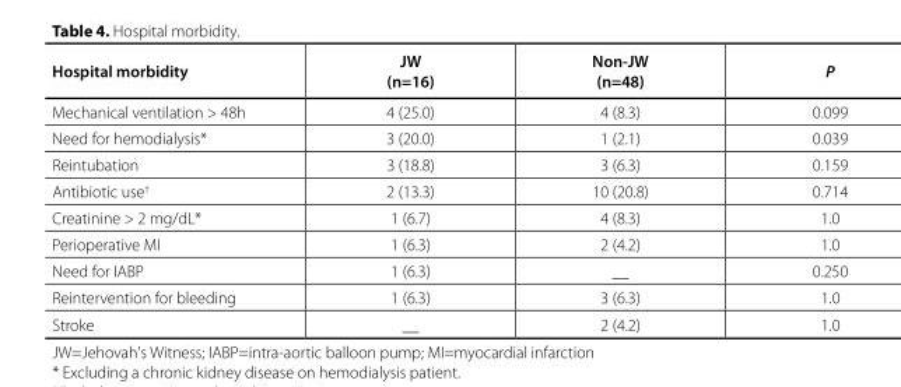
<table><thead><tr><td>Hospital morbidity</td><td>JW (n=16)</td><td>Non-JW (n=48)</td><td>P</td></tr></thead><tbody><tr><td>Mechanical ventilation &gt; 48h</td><td>4 (25.0)</td><td>4 (8.3)</td><td>0.099</td></tr><tr><td>Need for hemodialysis*</td><td>3 (20.0)</td><td>1 (2.1)</td><td>0.039</td></tr><tr><td>Reintubation</td><td>3 (18.8)</td><td>3 (6.3)</td><td>0.159</td></tr><tr><td>Antibiotic use<sup>†</sup></td><td>2 (13.3)</td><td>10 (20.8)</td><td>0.714</td></tr><tr><td>Creatinine &gt; 2 mg/dL*</td><td>1 (6.7)</td><td>4 (8.3)</td><td>1.0</td></tr><tr><td>Perioperative MI</td><td>1 (6.3)</td><td>2 (4.2)</td><td>1.0</td></tr><tr><td>Need for IABP</td><td>1 (6.3)</td><td>__</td><td>0.250</td></tr><tr><td>Reintervention for bleeding</td><td>1 (6.3)</td><td>3 (6.3)</td><td>1.0</td></tr><tr><td>Stroke</td><td>__</td><td>2 (4.2)</td><td>1.0</td></tr></tbody></table>